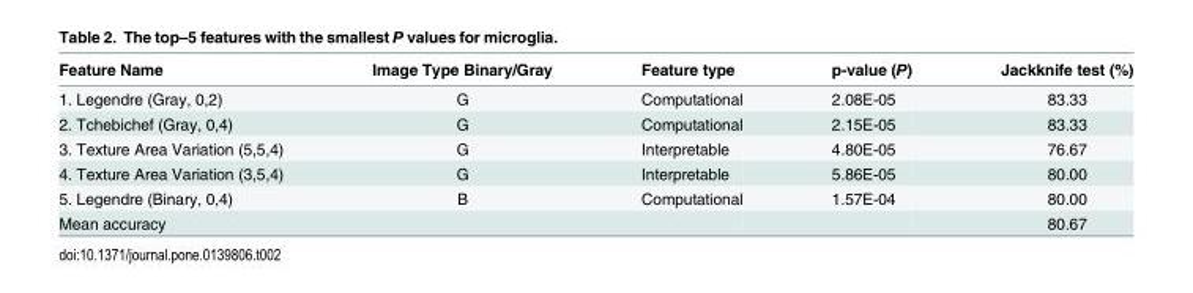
<table><thead><tr><td>Feature Name</td><td>Image Type Binary/Gray</td><td>Feature type</td><td>p-value (P)</td><td>Jackknife test (%)</td></tr></thead><tbody><tr><td>1. Legendre (Gray, 0,2)</td><td>G</td><td>Computational</td><td>2.08E-05</td><td>83.33</td></tr><tr><td>2. Tchebichef (Gray, 0,4)</td><td>G</td><td>Computational</td><td>2.15E-05</td><td>83.33</td></tr><tr><td>3. Texture Area Variation (5,5,4)</td><td>G</td><td>Interpretable</td><td>4.80E-05</td><td>76.67</td></tr><tr><td>4. Texture Area Variation (3,5,4)</td><td>G</td><td>Interpretable</td><td>5.86E-05</td><td>80.00</td></tr><tr><td>5. Legendre (Binary, 0,4)</td><td>B</td><td>Computational</td><td>1.57E-04</td><td>80.00</td></tr><tr><td>Mean accuracy</td><td></td><td></td><td></td><td>80.67</td></tr></tbody></table>